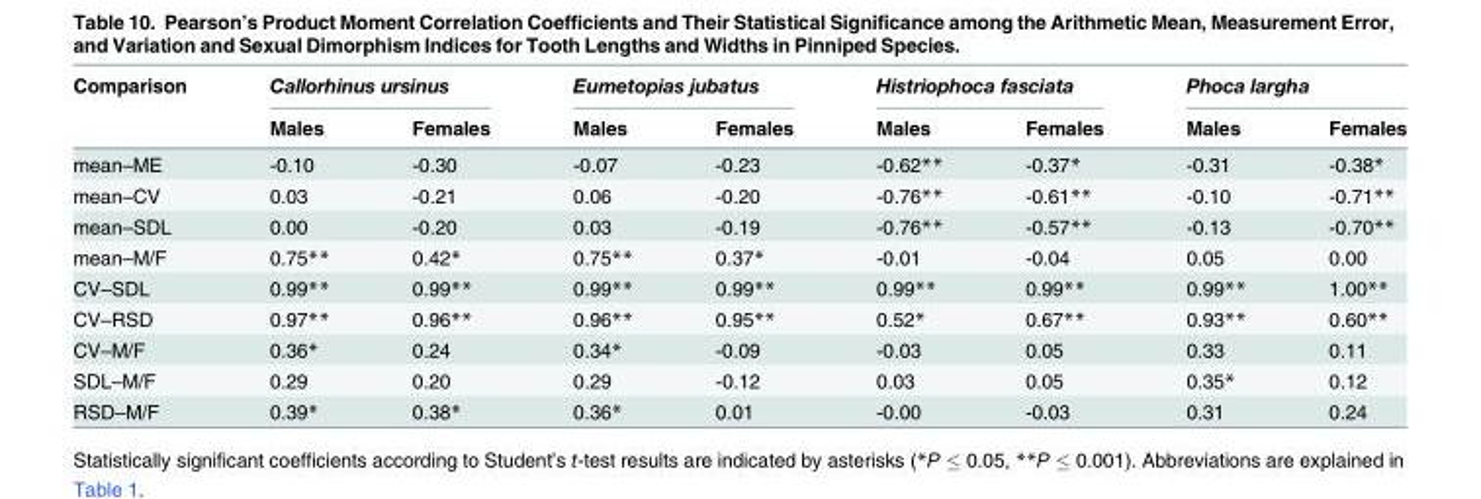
<table><thead><tr><td rowspan="2">Comparison</td><td colspan="2">Callorhinus ursinus</td><td colspan="2">Eumetopias jubatus</td><td colspan="2">Histriophoca fasciata</td><td colspan="2">Phoca largha</td></tr><tr><td>Males</td><td>Females</td><td>Males</td><td>Females</td><td>Males</td><td>Females</td><td>Males</td><td>Females</td></tr></thead><tbody><tr><td>mean–ME</td><td>-0.10</td><td>-0.30</td><td>-0.07</td><td>-0.23</td><td>-0.62**</td><td>-0.37*</td><td>-0.31</td><td>-0.38*</td></tr><tr><td>mean–CV</td><td>0.03</td><td>-0.21</td><td>0.06</td><td>-0.20</td><td>-0.76**</td><td>-0.61**</td><td>-0.10</td><td>-0.71**</td></tr><tr><td>mean–SDL</td><td>0.00</td><td>-0.20</td><td>0.03</td><td>-0.19</td><td>-0.76**</td><td>-0.57**</td><td>-0.13</td><td>-0.70**</td></tr><tr><td>mean–M/F</td><td>0.75**</td><td>0.42*</td><td>0.75**</td><td>0.37*</td><td>-0.01</td><td>-0.04</td><td>0.05</td><td>0.00</td></tr><tr><td>CV–SDL</td><td>0.99**</td><td>0.99**</td><td>0.99**</td><td>0.99**</td><td>0.99**</td><td>0.99**</td><td>0.99**</td><td>1.00**</td></tr><tr><td>CV–RSD</td><td>0.97**</td><td>0.96**</td><td>0.96**</td><td>0.95**</td><td>0.52*</td><td>0.67**</td><td>0.93**</td><td>0.60**</td></tr><tr><td>CV–M/F</td><td>0.36*</td><td>0.24</td><td>0.34*</td><td>-0.09</td><td>-0.03</td><td>0.05</td><td>0.33</td><td>0.11</td></tr><tr><td>SDL–M/F</td><td>0.29</td><td>0.20</td><td>0.29</td><td>-0.12</td><td>0.03</td><td>0.05</td><td>0.35*</td><td>0.12</td></tr><tr><td>RSD–M/F</td><td>0.39*</td><td>0.38*</td><td>0.36*</td><td>0.01</td><td>-0.00</td><td>-0.03</td><td>0.31</td><td>0.24</td></tr></tbody></table>